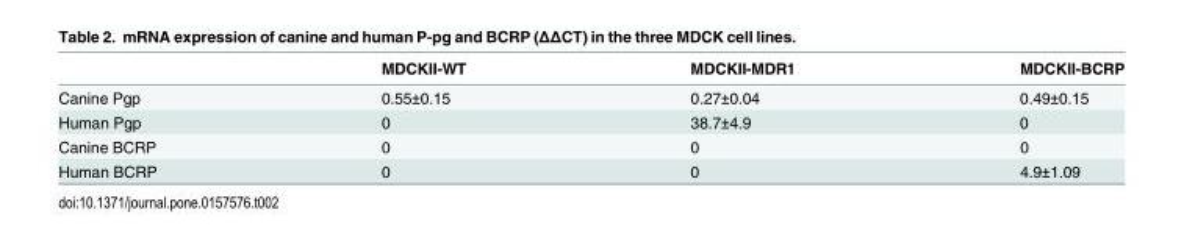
<table><thead><tr><td></td><td>MDCKII-WT</td><td>MDCKII-MDR1</td><td>MDCKII-BCRP</td></tr></thead><tbody><tr><td>Canine Pgp</td><td>0.55±0.15</td><td>0.27±0.04</td><td>0.49±0.15</td></tr><tr><td>Human Pgp</td><td>0</td><td>38.7±4.9</td><td>0</td></tr><tr><td>Canine BCRP</td><td>0</td><td>0</td><td>0</td></tr><tr><td>Human BCRP</td><td>0</td><td>0</td><td>4.9±1.09</td></tr></tbody></table>